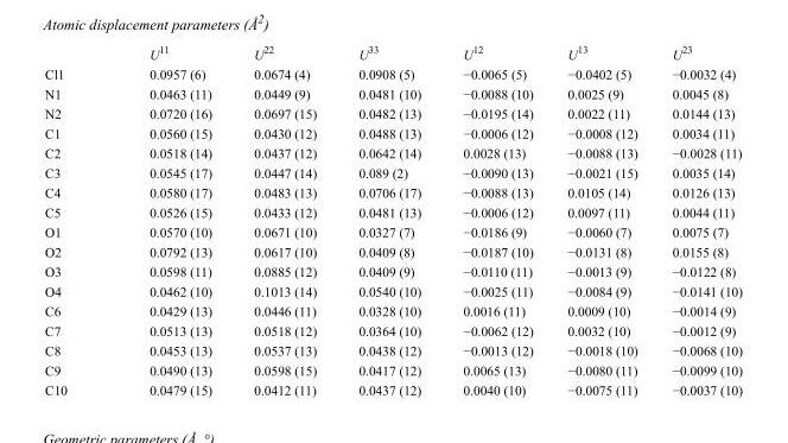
<table><thead><tr><td></td><td>U<sup>11</sup></td><td>U<sup>22</sup></td><td>U<sup>33</sup></td><td>U<sup>12</sup></td><td>U<sup>13</sup></td><td>U<sup>23</sup></td></tr></thead><tbody><tr><td>Cl1</td><td>0.0957 (6)</td><td>0.0674 (4)</td><td>0.0908 (5)</td><td>−0.0065 (5)</td><td>−0.0402 (5)</td><td>−0.0032 (4)</td></tr><tr><td>N1</td><td>0.0463 (11)</td><td>0.0449 (9)</td><td>0.0481 (10)</td><td>−0.0088 (10)</td><td>0.0025 (9)</td><td>0.0045 (8)</td></tr><tr><td>N2</td><td>0.0720 (16)</td><td>0.0697 (15)</td><td>0.0482 (13)</td><td>−0.0195 (14)</td><td>0.0022 (11)</td><td>0.0144 (13)</td></tr><tr><td>C1</td><td>0.0560 (15)</td><td>0.0430 (12)</td><td>0.0488 (13)</td><td>−0.0006 (12)</td><td>−0.0008 (12)</td><td>0.0034 (11)</td></tr><tr><td>C2</td><td>0.0518 (14)</td><td>0.0437 (12)</td><td>0.0642 (14)</td><td>0.0028 (13)</td><td>−0.0088 (13)</td><td>−0.0028 (11)</td></tr><tr><td>C3</td><td>0.0545 (17)</td><td>0.0447 (14)</td><td>0.089 (2)</td><td>−0.0090 (13)</td><td>−0.0021 (15)</td><td>0.0035 (14)</td></tr><tr><td>C4</td><td>0.0580 (17)</td><td>0.0483 (13)</td><td>0.0706 (17)</td><td>−0.0088 (13)</td><td>0.0105 (14)</td><td>0.0126 (13)</td></tr><tr><td>C5</td><td>0.0526 (15)</td><td>0.0433 (12)</td><td>0.0481 (13)</td><td>−0.0006 (12)</td><td>0.0097 (11)</td><td>0.0044 (11)</td></tr><tr><td>O1</td><td>0.0570 (10)</td><td>0.0671 (10)</td><td>0.0327 (7)</td><td>−0.0186 (9)</td><td>−0.0060 (7)</td><td>0.0075 (7)</td></tr><tr><td>O2</td><td>0.0792 (13)</td><td>0.0617 (10)</td><td>0.0409 (8)</td><td>−0.0187 (10)</td><td>−0.0131 (8)</td><td>0.0155 (8)</td></tr><tr><td>O3</td><td>0.0598 (11)</td><td>0.0885 (12)</td><td>0.0409 (9)</td><td>−0.0110 (11)</td><td>−0.0013 (9)</td><td>−0.0122 (8)</td></tr><tr><td>O4</td><td>0.0462 (10)</td><td>0.1013 (14)</td><td>0.0540 (10)</td><td>−0.0025 (11)</td><td>−0.0084 (9)</td><td>−0.0141 (10)</td></tr><tr><td>C6</td><td>0.0429 (13)</td><td>0.0446 (11)</td><td>0.0328 (10)</td><td>0.0016 (11)</td><td>0.0009 (10)</td><td>−0.0014 (9)</td></tr><tr><td>C7</td><td>0.0513 (13)</td><td>0.0518 (12)</td><td>0.0364 (10)</td><td>−0.0062 (12)</td><td>0.0032 (10)</td><td>−0.0012 (9)</td></tr><tr><td>C8</td><td>0.0453 (13)</td><td>0.0537 (13)</td><td>0.0438 (12)</td><td>−0.0013 (12)</td><td>−0.0018 (10)</td><td>−0.0068 (10)</td></tr><tr><td>C9</td><td>0.0490 (13)</td><td>0.0598 (15)</td><td>0.0417 (12)</td><td>0.0065 (13)</td><td>−0.0080 (11)</td><td>−0.0099 (10)</td></tr><tr><td>C10</td><td>0.0479 (15)</td><td>0.0412 (11)</td><td>0.0437 (12)</td><td>0.0040 (10)</td><td>−0.0075 (11)</td><td>−0.0037 (10)</td></tr></tbody></table>